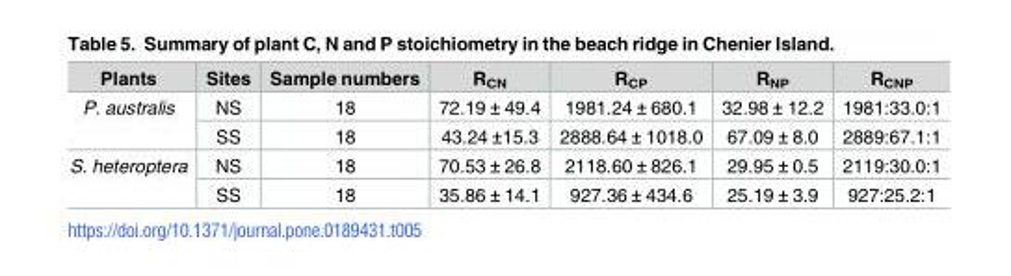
<table><thead><tr><td>Plants</td><td>Sites</td><td>Sample numbers</td><td>R<sub>CN</sub></td><td>R<sub>CP</sub></td><td>R<sub>NP</sub></td><td>R<sub>CNP</sub></td></tr></thead><tbody><tr><td rowspan="2">P. australis</td><td>NS</td><td>18</td><td>72.19 ± 49.4</td><td>1981.24 ± 680.1</td><td>32.98 ± 12.2</td><td>1981:33.0:1</td></tr><tr><td>SS</td><td>18</td><td>43.24 ±15.3</td><td>2888.64 ± 1018.0</td><td>67.09 ± 8.0</td><td>2889:67.1:1</td></tr><tr><td rowspan="2">S. heteroptera</td><td>NS</td><td>18</td><td>70.53 ± 26.8</td><td>2118.60 ± 826.1</td><td>29.95 ± 0.5</td><td>2119:30.0:1</td></tr><tr><td>SS</td><td>18</td><td>35.86 ± 14.1</td><td>927.36 ± 434.6</td><td>25.19 ± 3.9</td><td>927:25.2:1</td></tr></tbody></table>